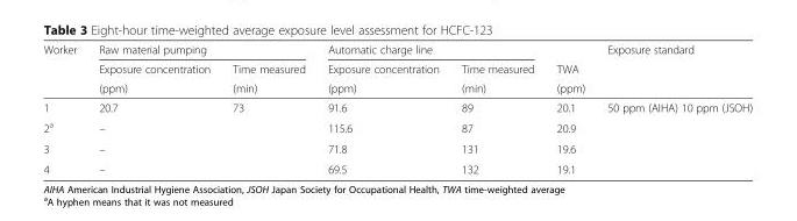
<table><thead><tr><td rowspan="3">Worker</td><td colspan="2">Raw material pumping</td><td colspan="2">Automatic charge line</td><td rowspan="3">TWA (ppm)</td><td rowspan="3">Exposure standard</td></tr><tr><td rowspan="2">Exposure concentration (ppm)</td><td rowspan="2">Time measured (min)</td><td rowspan="2">Exposure concentration (ppm)</td><td rowspan="2">Time measured (min)</td></tr><tr></tr></thead><tbody><tr><td>1</td><td>20.7</td><td>73</td><td>91.6</td><td>89</td><td>20.1</td><td rowspan="4">50 ppm (AIHA) 10 ppm (JSOH)</td></tr><tr><td>2<sup>a</sup></td><td colspan="2">–</td><td>115.6</td><td>87</td><td>20.9</td></tr><tr><td>3</td><td colspan="2">–</td><td>71.8</td><td>131</td><td>19.6</td></tr><tr><td>4</td><td colspan="2">–</td><td>69.5</td><td>132</td><td>19.1</td></tr></tbody></table>